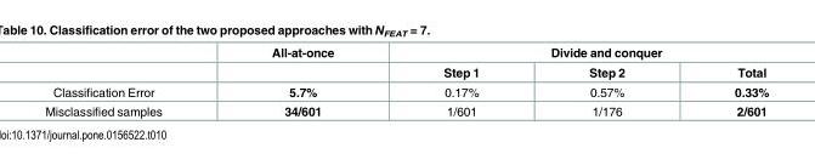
<table><thead><tr><td rowspan="2"></td><td rowspan="2">All-at-once</td><td colspan="3">Divide and conquer</td></tr><tr><td>Step 1</td><td>Step 2</td><td>Total</td></tr></thead><tbody><tr><td>Classification Error</td><td>5.7%</td><td>0.17%</td><td>0.57%</td><td>0.33%</td></tr><tr><td>Misclassified samples</td><td>34/601</td><td>1/601</td><td>1/176</td><td>2/601</td></tr></tbody></table>